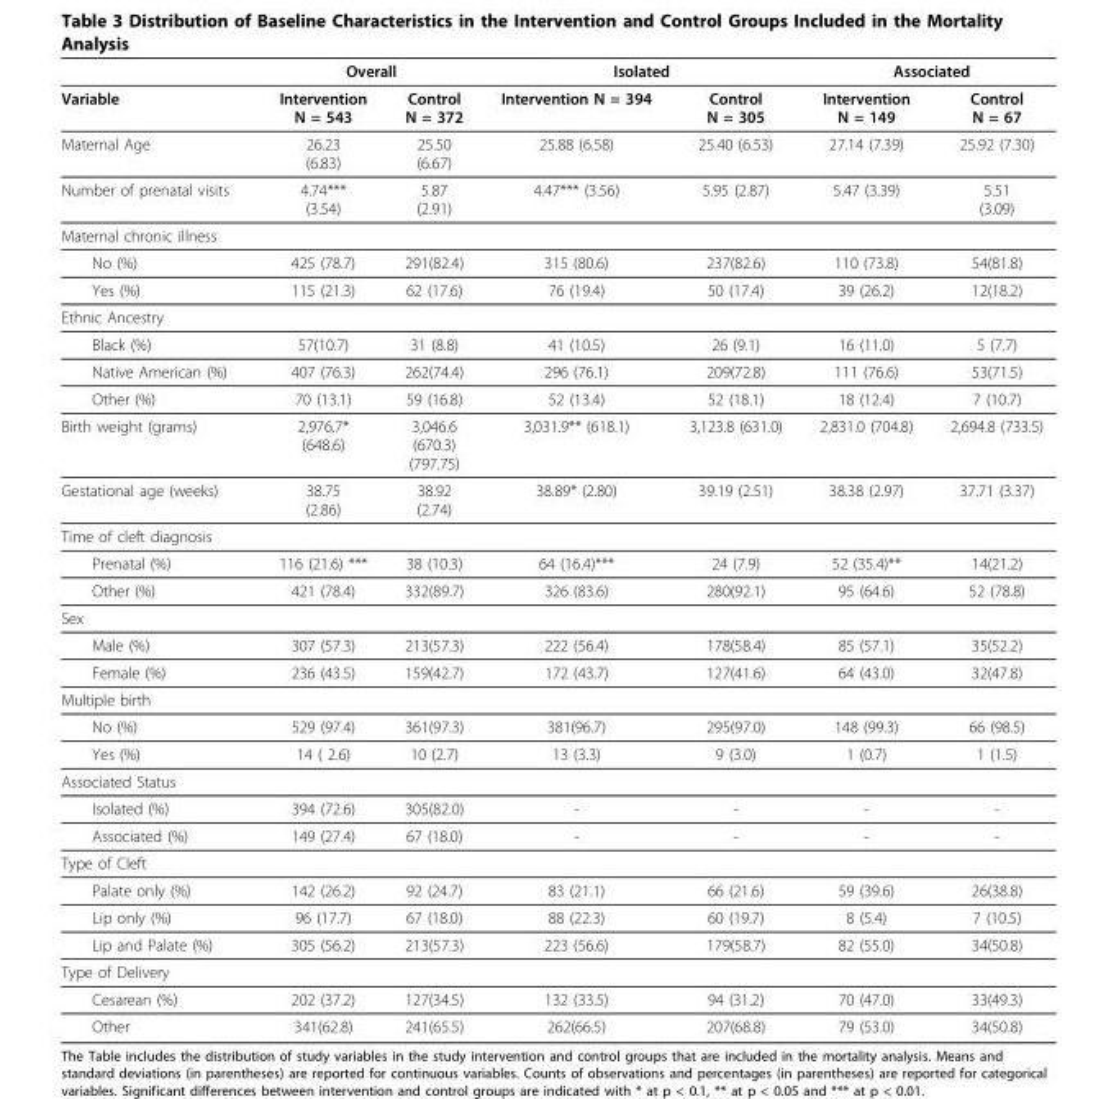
<table><thead><tr><td rowspan="2">Variable</td><td colspan="2">Overall</td><td colspan="2">Isolated</td><td colspan="2">Associated</td></tr><tr><td>Intervention N = 543</td><td>Control N = 372</td><td>Intervention N = 394</td><td>Control N = 305</td><td>Intervention N = 149</td><td>Control N = 67</td></tr></thead><tbody><tr><td>Maternal Age</td><td>26.23 (6.83)</td><td>25.50 (6.67)</td><td>25.88 (6.58)</td><td>25.40 (6.53)</td><td>27.14 (7.39)</td><td>25.92 (7.30)</td></tr><tr><td>Number of prenatal visits</td><td>4.74*** (3.54)</td><td>5.87 (2.91)</td><td>4.47*** (3.56)</td><td>5.95 (2.87)</td><td>5.47 (3.39)</td><td>5.51 (3.09)</td></tr><tr><td colspan="7">Maternal chronic illness</td></tr><tr><td>No (%)</td><td>425 (78.7)</td><td>291(82.4)</td><td>315 (80.6)</td><td>237(82.6)</td><td>110 (73.8)</td><td>54(81.8)</td></tr><tr><td>Yes (%)</td><td>115 (21.3)</td><td>62 (17.6)</td><td>76 (19.4)</td><td>50 (17.4)</td><td>39 (26.2)</td><td>12(18.2)</td></tr><tr><td colspan="7">Ethnic Ancestry</td></tr><tr><td>Black (%)</td><td>57(10.7)</td><td>31 (8.8)</td><td>41 (10.5)</td><td>26 (9.1)</td><td>16 (11.0)</td><td>5 (7.7)</td></tr><tr><td>Native American (%)</td><td>407 (76.3)</td><td>262(74.4)</td><td>296 (76.1)</td><td>209(72.8)</td><td>111 (76.6)</td><td>53(71.5)</td></tr><tr><td>Other (%)</td><td>70 (13.1)</td><td>59 (16.8)</td><td>52 (13.4)</td><td>52 (18.1)</td><td>18 (12.4)</td><td>7 (10.7)</td></tr><tr><td>Birth weight (grams)</td><td>2,976.7* (648.6)</td><td>3,046.6 (670.3) (797.75)</td><td>3,031.9** (618.1)</td><td>3,123.8 (631.0)</td><td>2,831.0 (704.8)</td><td>2,694.8 (733.5)</td></tr><tr><td>Gestational age (weeks)</td><td>38.75 (2.86)</td><td>38.92 (2.74)</td><td>38.89* (2.80)</td><td>39.19 (2.51)</td><td>38.38 (2.97)</td><td>37.71 (3.37)</td></tr><tr><td colspan="7">Time of cleft diagnosis</td></tr><tr><td>Prenatal (%)</td><td>116 (21.6) ***</td><td>38 (10.3)</td><td>64 (16.4)***</td><td>24 (7.9)</td><td>52 (35.4)**</td><td>14(21.2)</td></tr><tr><td>Other (%)</td><td>421 (78.4)</td><td>332(89.7)</td><td>326 (83.6)</td><td>280(92.1)</td><td>95 (64.6)</td><td>52 (78.8)</td></tr><tr><td colspan="7">Sex</td></tr><tr><td>Male (%)</td><td>307 (57.3)</td><td>213(57.3)</td><td>222 (56.4)</td><td>178(58.4)</td><td>85 (57.1)</td><td>35(52.2)</td></tr><tr><td>Female (%)</td><td>236 (43.5)</td><td>159(42.7)</td><td>172 (43.7)</td><td>127(41.6)</td><td>64 (43.0)</td><td>32(47.8)</td></tr><tr><td colspan="7">Multiple birth</td></tr><tr><td>No (%)</td><td>529 (97.4)</td><td>361(97.3)</td><td>381(96.7)</td><td>295(97.0)</td><td>148 (99.3)</td><td>66 (98.5)</td></tr><tr><td>Yes (%)</td><td>14 ( 2.6)</td><td>10 (2.7)</td><td>13 (3.3)</td><td>9 (3.0)</td><td>1 (0.7)</td><td>1 (1.5)</td></tr><tr><td colspan="7">Associated Status</td></tr><tr><td>Isolated (%)</td><td>394 (72.6)</td><td>305(82.0)</td><td>-</td><td>-</td><td>-</td><td>-</td></tr><tr><td>Associated (%)</td><td>149 (27.4)</td><td>67 (18.0)</td><td>-</td><td>-</td><td>-</td><td>-</td></tr><tr><td colspan="7">Type of Cleft</td></tr><tr><td>Palate only (%)</td><td>142 (26.2)</td><td>92 (24.7)</td><td>83 (21.1)</td><td>66 (21.6)</td><td>59 (39.6)</td><td>26(38.8)</td></tr><tr><td>Lip only (%)</td><td>96 (17.7)</td><td>67 (18.0)</td><td>88 (22.3)</td><td>60 (19.7)</td><td>8 (5.4)</td><td>7 (10.5)</td></tr><tr><td>Lip and Palate (%)</td><td>305 (56.2)</td><td>213(57.3)</td><td>223 (56.6)</td><td>179(58.7)</td><td>82 (55.0)</td><td>34(50.8)</td></tr><tr><td colspan="7">Type of Delivery</td></tr><tr><td>Cesarean (%)</td><td>202 (37.2)</td><td>127(34.5)</td><td>132 (33.5)</td><td>94 (31.2)</td><td>70 (47.0)</td><td>33(49.3)</td></tr><tr><td>Other</td><td>341(62.8)</td><td>241(65.5)</td><td>262(66.5)</td><td>207(68.8)</td><td>79 (53.0)</td><td>34(50.8)</td></tr></tbody></table>